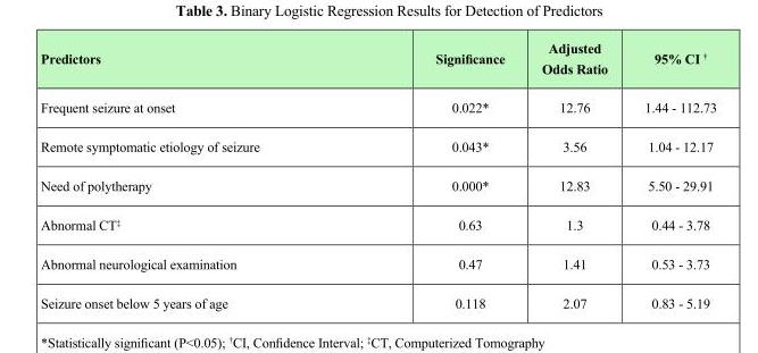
<table><thead><tr><td>Predictors</td><td>Significance</td><td>Adjusted Odds Ratio</td><td>95% CI <sup>†</sup></td></tr></thead><tbody><tr><td>Frequent seizure at onset</td><td>0.022*</td><td>12.76</td><td>1.44 - 112.73</td></tr><tr><td>Remote symptomatic etiology of seizure</td><td>0.043*</td><td>3.56</td><td>1.04 - 12.17</td></tr><tr><td>Need of polytherapy</td><td>0.000*</td><td>12.83</td><td>5.50 - 29.91</td></tr><tr><td>Abnormal CT‡</td><td>0.63</td><td>1.3</td><td>0.44 - 3.78</td></tr><tr><td>Abnormal neurological examination</td><td>0.47</td><td>1.41</td><td>0.53 - 3.73</td></tr><tr><td>Seizure onset below 5 years of age</td><td>0.118</td><td>2.07</td><td>0.83 - 5.19</td></tr></tbody></table>